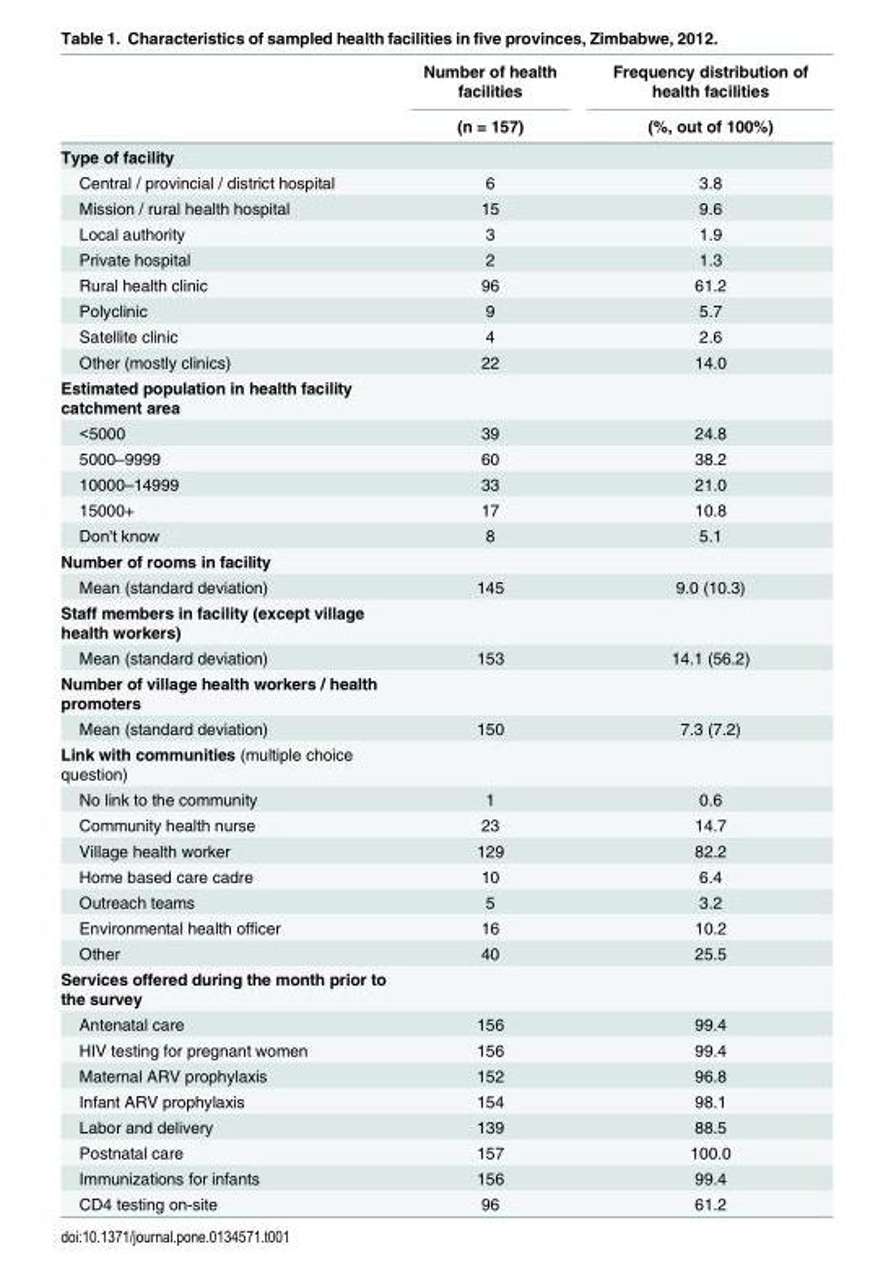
<table><thead><tr><td rowspan="2"></td><td rowspan="2">Number of health facilities (n = 157)</td><td rowspan="2">Frequency distribution of health facilities (%, out of 100%)</td></tr><tr></tr></thead><tbody><tr><td colspan="3">Type of facility</td></tr><tr><td>Central / provincial / district hospital</td><td>6</td><td>3.8</td></tr><tr><td>Mission / rural health hospital</td><td>15</td><td>9.6</td></tr><tr><td>Local authority</td><td>3</td><td>1.9</td></tr><tr><td>Private hospital</td><td>2</td><td>1.3</td></tr><tr><td>Rural health clinic</td><td>96</td><td>61.2</td></tr><tr><td>Polyclinic</td><td>9</td><td>5.7</td></tr><tr><td>Satellite clinic</td><td>4</td><td>2.6</td></tr><tr><td>Other (mostly clinics)</td><td>22</td><td>14.0</td></tr><tr><td colspan="3">Estimated population in health facility catchment area</td></tr><tr><td>&lt;5000</td><td>39</td><td>24.8</td></tr><tr><td>5000–9999</td><td>60</td><td>38.2</td></tr><tr><td>10000–14999</td><td>33</td><td>21.0</td></tr><tr><td>15000+</td><td>17</td><td>10.8</td></tr><tr><td>Don&#x27;t know</td><td>8</td><td>5.1</td></tr><tr><td colspan="3">Number of rooms in facility</td></tr><tr><td>Mean (standard deviation)</td><td>145</td><td>9.0 (10.3)</td></tr><tr><td colspan="3">Staff members in facility (except village health workers)</td></tr><tr><td>Mean (standard deviation)</td><td>153</td><td>14.1 (56.2)</td></tr><tr><td colspan="3">Number of village health workers / health promoters</td></tr><tr><td>Mean (standard deviation)</td><td>150</td><td>7.3 (7.2)</td></tr><tr><td colspan="3">Link with communities (multiple choice question)</td></tr><tr><td>No link to the community</td><td>1</td><td>0.6</td></tr><tr><td>Community health nurse</td><td>23</td><td>14.7</td></tr><tr><td>Village health worker</td><td>129</td><td>82.2</td></tr><tr><td>Home based care cadre</td><td>10</td><td>6.4</td></tr><tr><td>Outreach teams</td><td>5</td><td>3.2</td></tr><tr><td>Environmental health officer</td><td>16</td><td>10.2</td></tr><tr><td>Other</td><td>40</td><td>25.5</td></tr><tr><td colspan="3">Services offered during the month prior to the survey</td></tr><tr><td>Antenatal care</td><td>156</td><td>99.4</td></tr><tr><td>HIV testing for pregnant women</td><td>156</td><td>99.4</td></tr><tr><td>Maternal ARV prophylaxis</td><td>152</td><td>96.8</td></tr><tr><td>Infant ARV prophylaxis</td><td>154</td><td>98.1</td></tr><tr><td>Labor and delivery</td><td>139</td><td>88.5</td></tr><tr><td>Postnatal care</td><td>157</td><td>100.0</td></tr><tr><td>Immunizations for infants</td><td>156</td><td>99.4</td></tr><tr><td>CD4 testing on-site</td><td>96</td><td>61.2</td></tr></tbody></table>